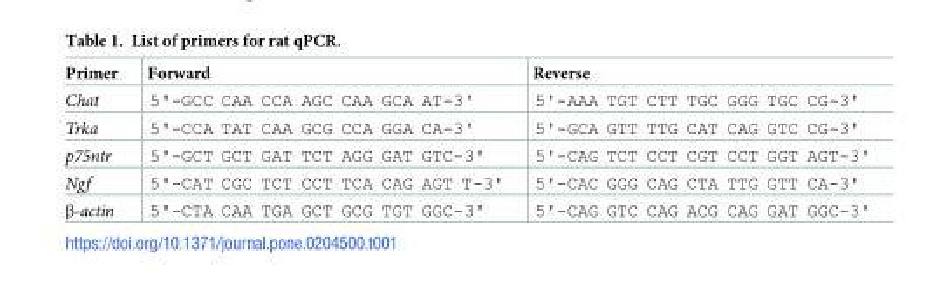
<table><thead><tr><td>Primer</td><td>Forward</td><td>Reverse</td></tr></thead><tbody><tr><td>Chat</td><td>5&#x27;-GCC CAA CCA AGC CAA GCA AT-3&#x27;</td><td>5&#x27;-AAA TGT CTT TGC GGG TGC CG-3&#x27;</td></tr><tr><td>Trka</td><td>5&#x27;-CCA TAT CAA GCG CCA GGA CA-3&#x27;</td><td>5&#x27;-GCA GTT TTG CAT CAG GTC CG-3&#x27;</td></tr><tr><td>p75ntr</td><td>5&#x27;-GCT GCT GAT TCT AGG GAT GTC-3&#x27;</td><td>5&#x27;-CAG TCT CCT CGT CCT GGT AGT-3&#x27;</td></tr><tr><td>Ngf</td><td>5&#x27;-CAT CGC TCT CCT TCA CAG AGT T-3&#x27;</td><td>5&#x27;-CAC GGG CAG CTA TTG GTT CA-3&#x27;</td></tr><tr><td>β-actin</td><td>5&#x27;-CTA CAA TGA GCT GCG TGT GGC-3&#x27;</td><td>5&#x27;-CAG GTC CAG ACG CAG GAT GGC-3&#x27;</td></tr></tbody></table>